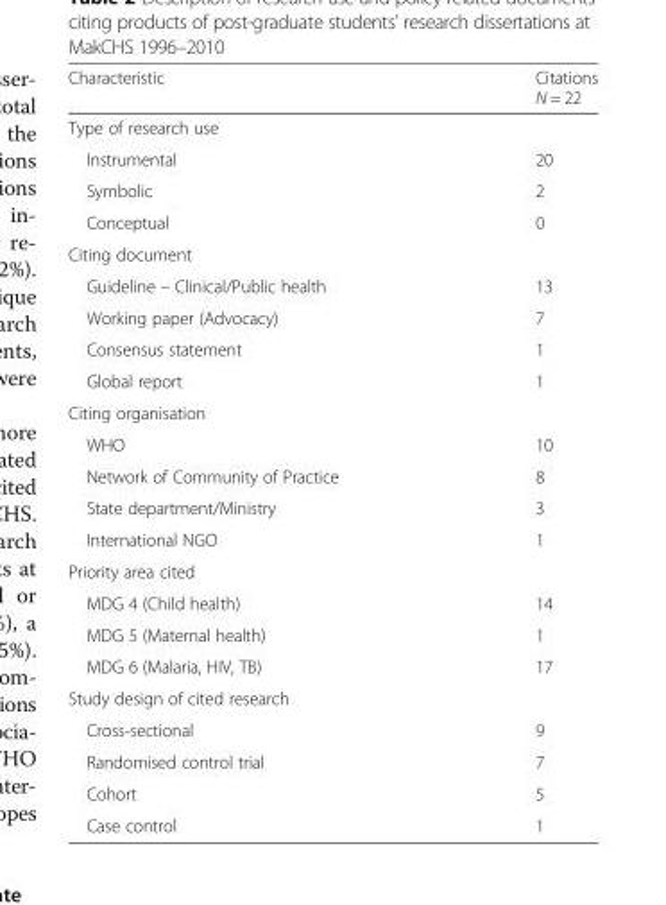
<table><thead><tr><td>Characteristic</td><td>Citations N = 22</td></tr></thead><tbody><tr><td colspan="2">Type of research use</td></tr><tr><td>Instrumental</td><td>20</td></tr><tr><td>Symbolic</td><td>2</td></tr><tr><td>Conceptual</td><td>0</td></tr><tr><td colspan="2">Citing document</td></tr><tr><td>Guideline – Clinical/Public health</td><td>13</td></tr><tr><td>Working paper (Advocacy)</td><td>7</td></tr><tr><td>Consensus statement</td><td>1</td></tr><tr><td>Global report</td><td>1</td></tr><tr><td colspan="2">Citing organisation</td></tr><tr><td>WHO</td><td>10</td></tr><tr><td>Network of Community of Practice</td><td>8</td></tr><tr><td>State department/Ministry</td><td>3</td></tr><tr><td>International NGO</td><td>1</td></tr><tr><td colspan="2">Priority area cited</td></tr><tr><td>MDG 4 (Child health)</td><td>14</td></tr><tr><td>MDG 5 (Maternal health)</td><td>1</td></tr><tr><td>MDG 6 (Malaria, HIV, TB)</td><td>17</td></tr><tr><td colspan="2">Study design of cited research</td></tr><tr><td>Cross-sectional</td><td>9</td></tr><tr><td>Randomised control trial</td><td>7</td></tr><tr><td>Cohort</td><td>5</td></tr><tr><td>Case control</td><td>1</td></tr></tbody></table>